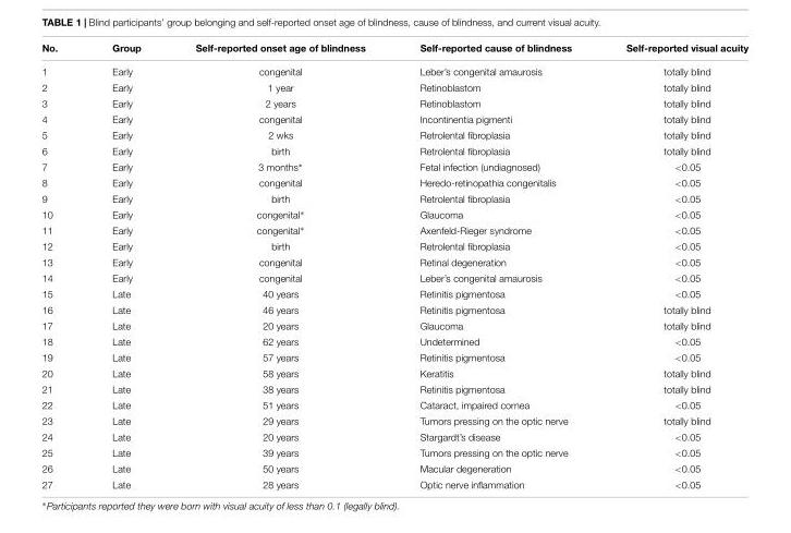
<table><thead><tr><td>No.</td><td>Group</td><td>Self-reported onset age of blindness</td><td>Self-reported cause of blindness</td><td>Self-reported visual acuity</td></tr></thead><tbody><tr><td>1</td><td>Early</td><td>congenital</td><td>Leber’s congenital amaurosis</td><td>totally blind</td></tr><tr><td>2</td><td>Early</td><td>1 year</td><td>Retinoblastom</td><td>totally blind</td></tr><tr><td>3</td><td>Early</td><td>2 years</td><td>Retinoblastom</td><td>totally blind</td></tr><tr><td>4</td><td>Early</td><td>congenital</td><td>Incontinentia pigmenti</td><td>totally blind</td></tr><tr><td>5</td><td>Early</td><td>2 wks</td><td>Retrolental fibroplasia</td><td>totally blind</td></tr><tr><td>6</td><td>Early</td><td>birth</td><td>Retrolental fibroplasia</td><td>totally blind</td></tr><tr><td>7</td><td>Early</td><td>3 months∗</td><td>Fetal infection (undiagnosed)</td><td>&lt;0.05</td></tr><tr><td>8</td><td>Early</td><td>congenital</td><td>Heredo-retinopathia congenitalis</td><td>&lt;0.05</td></tr><tr><td>9</td><td>Early</td><td>birth</td><td>Retrolental fibroplasia</td><td>&lt;0.05</td></tr><tr><td>10</td><td>Early</td><td>congenital∗</td><td>Glaucoma</td><td>&lt;0.05</td></tr><tr><td>11</td><td>Early</td><td>congenital∗</td><td>Axenfeld-Rieger syndrome</td><td>&lt;0.05</td></tr><tr><td>12</td><td>Early</td><td>birth</td><td>Retrolental fibroplasia</td><td>&lt;0.05</td></tr><tr><td>13</td><td>Early</td><td>congenital</td><td>Retinal degeneration</td><td>&lt;0.05</td></tr><tr><td>14</td><td>Early</td><td>congenital</td><td>Leber’s congenital amaurosis</td><td>&lt;0.05</td></tr><tr><td>15</td><td>Late</td><td>40 years</td><td>Retinitis pigmentosa</td><td>&lt;0.05</td></tr><tr><td>16</td><td>Late</td><td>46 years</td><td>Retinitis pigmentosa</td><td>totally blind</td></tr><tr><td>17</td><td>Late</td><td>20 years</td><td>Glaucoma</td><td>totally blind</td></tr><tr><td>18</td><td>Late</td><td>62 years</td><td>Undetermined</td><td>&lt;0.05</td></tr><tr><td>19</td><td>Late</td><td>57 years</td><td>Retinitis pigmentosa</td><td>&lt;0.05</td></tr><tr><td>20</td><td>Late</td><td>58 years</td><td>Keratitis</td><td>totally blind</td></tr><tr><td>21</td><td>Late</td><td>38 years</td><td>Retinitis pigmentosa</td><td>totally blind</td></tr><tr><td>22</td><td>Late</td><td>51 years</td><td>Cataract, impaired cornea</td><td>&lt;0.05</td></tr><tr><td>23</td><td>Late</td><td>29 years</td><td>Tumors pressing on the optic nerve</td><td>totally blind</td></tr><tr><td>24</td><td>Late</td><td>20 years</td><td>Stargardt’s disease</td><td>&lt;0.05</td></tr><tr><td>25</td><td>Late</td><td>39 years</td><td>Tumors pressing on the optic nerve</td><td>&lt;0.05</td></tr><tr><td>26</td><td>Late</td><td>50 years</td><td>Macular degeneration</td><td>&lt;0.05</td></tr><tr><td>27</td><td>Late</td><td>28 years</td><td>Optic nerve inflammation</td><td>&lt;0.05</td></tr></tbody></table>